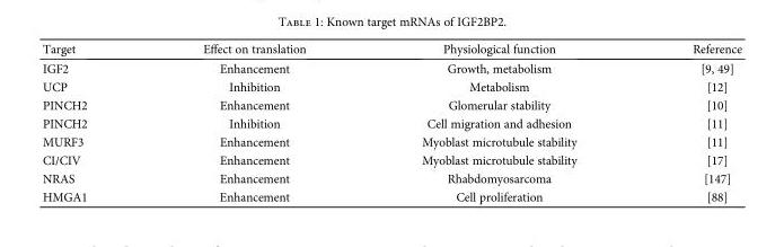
<table><thead><tr><td>Target</td><td>Effect on translation</td><td>Physiological function</td><td>Reference</td></tr></thead><tbody><tr><td>IGF2</td><td>Enhancement</td><td>Growth, metabolism</td><td>[9, 49]</td></tr><tr><td>UCP</td><td>Inhibition</td><td>Metabolism</td><td>[12]</td></tr><tr><td>PINCH2</td><td>Enhancement</td><td>Glomerular stability</td><td>[10]</td></tr><tr><td>PINCH2</td><td>Inhibition</td><td>Cell migration and adhesion</td><td>[11]</td></tr><tr><td>MURF3</td><td>Enhancement</td><td>Myoblast microtubule stability</td><td>[11]</td></tr><tr><td>CI/CIV</td><td>Enhancement</td><td>Myoblast microtubule stability</td><td>[17]</td></tr><tr><td>NRAS</td><td>Enhancement</td><td>Rhabdomyosarcoma</td><td>[147]</td></tr><tr><td>HMGA1</td><td>Enhancement</td><td>Cell proliferation</td><td>[88]</td></tr></tbody></table>